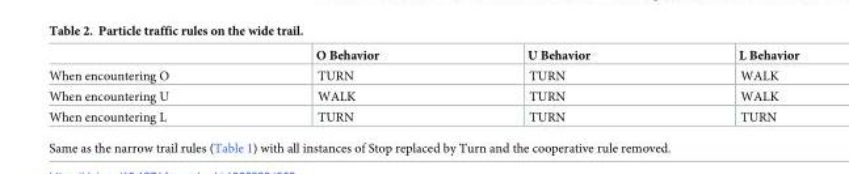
<table><thead><tr><td></td><td>O Behavior</td><td>U Behavior</td><td>L Behavior</td></tr></thead><tbody><tr><td>When encountering O</td><td>TURN</td><td>TURN</td><td>WALK</td></tr><tr><td>When encountering U</td><td>WALK</td><td>TURN</td><td>WALK</td></tr><tr><td>When encountering L</td><td>TURN</td><td>TURN</td><td>TURN</td></tr></tbody></table>